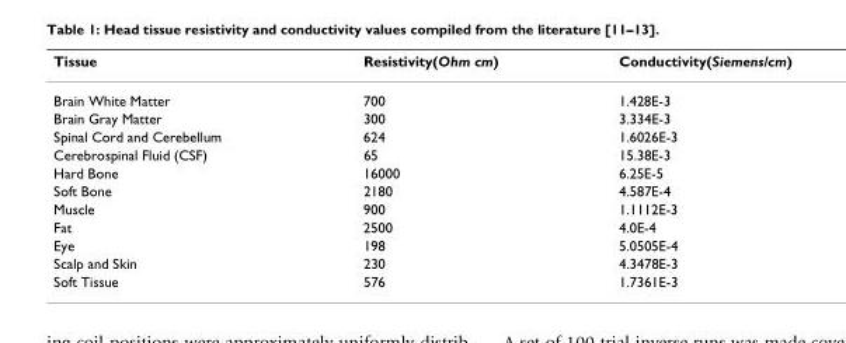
<table><thead><tr><td>Tissue</td><td>Resistivity(Ohm cm)</td><td>Conductivity(Siemens/cm)</td></tr></thead><tbody><tr><td>Brain White Matter</td><td>700</td><td>1.428E-3</td></tr><tr><td>Brain Gray Matter</td><td>300</td><td>3.334E-3</td></tr><tr><td>Spinal Cord and Cerebellum</td><td>624</td><td>1.6026E-3</td></tr><tr><td>Cerebrospinal Fluid (CSF)</td><td>65</td><td>15.38E-3</td></tr><tr><td>Hard Bone</td><td>16000</td><td>6.25E-5</td></tr><tr><td>Soft Bone</td><td>2180</td><td>4.587E-4</td></tr><tr><td>Muscle</td><td>900</td><td>1.1112E-3</td></tr><tr><td>Fat</td><td>2500</td><td>4.0E-4</td></tr><tr><td>Eye</td><td>198</td><td>5.0505E-4</td></tr><tr><td>Scalp and Skin</td><td>230</td><td>4.3478E-3</td></tr><tr><td>Soft Tissue</td><td>576</td><td>1.7361E-3</td></tr></tbody></table>